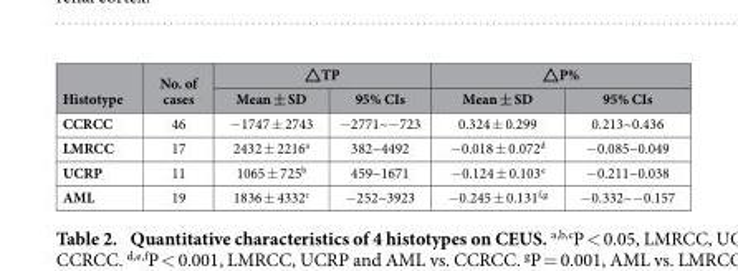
<table><thead><tr><td rowspan="2">Histotype</td><td rowspan="2">No. of cases</td><td colspan="2">△TP</td><td colspan="2">△P%</td></tr><tr><td>Mean ± SD</td><td>95% CIs</td><td>Mean ± SD</td><td>95% CIs</td></tr></thead><tbody><tr><td>CCRCC</td><td>46</td><td>− 1747 ± 2743</td><td>− 2771~− 723</td><td>0.324 ± 0.299</td><td>0.213~0.436</td></tr><tr><td>LMRCC</td><td>17</td><td>2432 ± 2216<sup>a</sup></td><td>382~4492</td><td>− 0.018 ± 0.072<sup>d</sup></td><td>− 0.085~0.049</td></tr><tr><td>UCRP</td><td>11</td><td>1065 ± 725<sup>b</sup></td><td>459~1671</td><td>− 0.124 ± 0.103<sup>e</sup></td><td>− 0.211~0.038</td></tr><tr><td>AML</td><td>19</td><td>1836 ± 4332<sup>c</sup></td><td>− 252~3923</td><td>− 0.245 ± 0.131<sup>f,g</sup></td><td>− 0.332~− 0.157</td></tr></tbody></table>